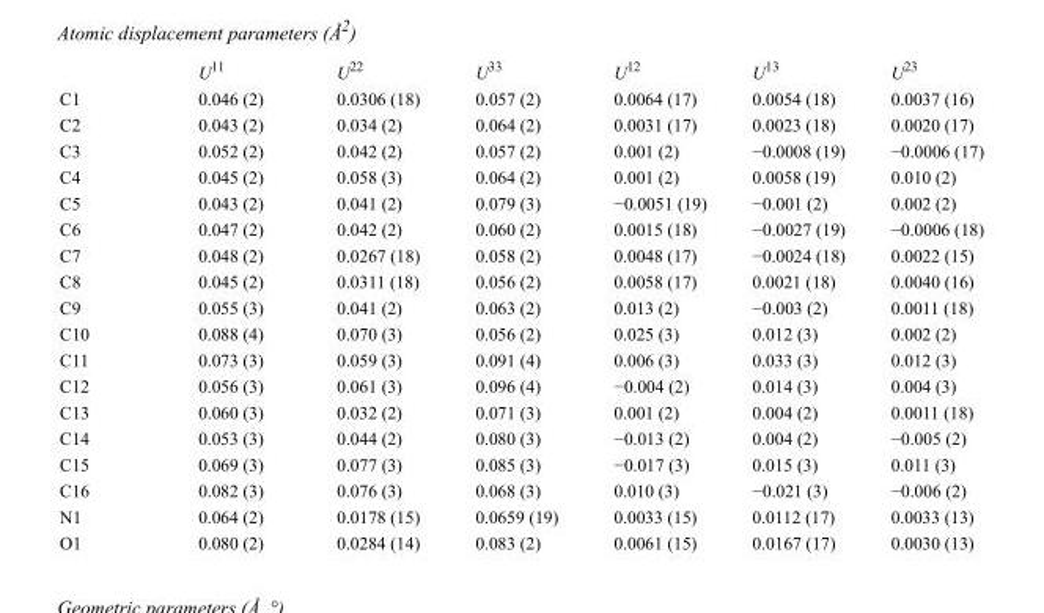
<table><thead><tr><td></td><td>U<sup>11</sup></td><td>U<sup>22</sup></td><td>U<sup>33</sup></td><td>U<sup>12</sup></td><td>U<sup>13</sup></td><td>U<sup>23</sup></td></tr></thead><tbody><tr><td>C1</td><td>0.046 (2)</td><td>0.0306 (18)</td><td>0.057 (2)</td><td>0.0064 (17)</td><td>0.0054 (18)</td><td>0.0037 (16)</td></tr><tr><td>C2</td><td>0.043 (2)</td><td>0.034 (2)</td><td>0.064 (2)</td><td>0.0031 (17)</td><td>0.0023 (18)</td><td>0.0020 (17)</td></tr><tr><td>C3</td><td>0.052 (2)</td><td>0.042 (2)</td><td>0.057 (2)</td><td>0.001 (2)</td><td>−0.0008 (19)</td><td>−0.0006 (17)</td></tr><tr><td>C4</td><td>0.045 (2)</td><td>0.058 (3)</td><td>0.064 (2)</td><td>0.001 (2)</td><td>0.0058 (19)</td><td>0.010 (2)</td></tr><tr><td>C5</td><td>0.043 (2)</td><td>0.041 (2)</td><td>0.079 (3)</td><td>−0.0051 (19)</td><td>−0.001 (2)</td><td>0.002 (2)</td></tr><tr><td>C6</td><td>0.047 (2)</td><td>0.042 (2)</td><td>0.060 (2)</td><td>0.0015 (18)</td><td>−0.0027 (19)</td><td>−0.0006 (18)</td></tr><tr><td>C7</td><td>0.048 (2)</td><td>0.0267 (18)</td><td>0.058 (2)</td><td>0.0048 (17)</td><td>−0.0024 (18)</td><td>0.0022 (15)</td></tr><tr><td>C8</td><td>0.045 (2)</td><td>0.0311 (18)</td><td>0.056 (2)</td><td>0.0058 (17)</td><td>0.0021 (18)</td><td>0.0040 (16)</td></tr><tr><td>C9</td><td>0.055 (3)</td><td>0.041 (2)</td><td>0.063 (2)</td><td>0.013 (2)</td><td>−0.003 (2)</td><td>0.0011 (18)</td></tr><tr><td>C10</td><td>0.088 (4)</td><td>0.070 (3)</td><td>0.056 (2)</td><td>0.025 (3)</td><td>0.012 (3)</td><td>0.002 (2)</td></tr><tr><td>C11</td><td>0.073 (3)</td><td>0.059 (3)</td><td>0.091 (4)</td><td>0.006 (3)</td><td>0.033 (3)</td><td>0.012 (3)</td></tr><tr><td>C12</td><td>0.056 (3)</td><td>0.061 (3)</td><td>0.096 (4)</td><td>−0.004 (2)</td><td>0.014 (3)</td><td>0.004 (3)</td></tr><tr><td>C13</td><td>0.060 (3)</td><td>0.032 (2)</td><td>0.071 (3)</td><td>0.001 (2)</td><td>0.004 (2)</td><td>0.0011 (18)</td></tr><tr><td>C14</td><td>0.053 (3)</td><td>0.044 (2)</td><td>0.080 (3)</td><td>−0.013 (2)</td><td>0.004 (2)</td><td>−0.005 (2)</td></tr><tr><td>C15</td><td>0.069 (3)</td><td>0.077 (3)</td><td>0.085 (3)</td><td>−0.017 (3)</td><td>0.015 (3)</td><td>0.011 (3)</td></tr><tr><td>C16</td><td>0.082 (3)</td><td>0.076 (3)</td><td>0.068 (3)</td><td>0.010 (3)</td><td>−0.021 (3)</td><td>−0.006 (2)</td></tr><tr><td>N1</td><td>0.064 (2)</td><td>0.0178 (15)</td><td>0.0659 (19)</td><td>0.0033 (15)</td><td>0.0112 (17)</td><td>0.0033 (13)</td></tr><tr><td>O1</td><td>0.080 (2)</td><td>0.0284 (14)</td><td>0.083 (2)</td><td>0.0061 (15)</td><td>0.0167 (17)</td><td>0.0030 (13)</td></tr></tbody></table>